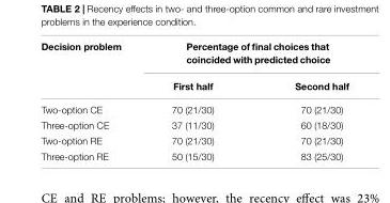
<table><thead><tr><td rowspan="2">Decision problem</td><td colspan="2">Percentage of final choices that coincided with predicted choice</td></tr><tr><td>First half</td><td>Second half</td></tr></thead><tbody><tr><td>Two-option CE</td><td>70 (21/30)</td><td>70 (21/30)</td></tr><tr><td>Three-option CE</td><td>37 (11/30)</td><td>60 (18/30)</td></tr><tr><td>Two-option RE</td><td>70 (21/30)</td><td>70 (21/30)</td></tr><tr><td>Three-option RE</td><td>50 (15/30)</td><td>83 (25/30)</td></tr></tbody></table>